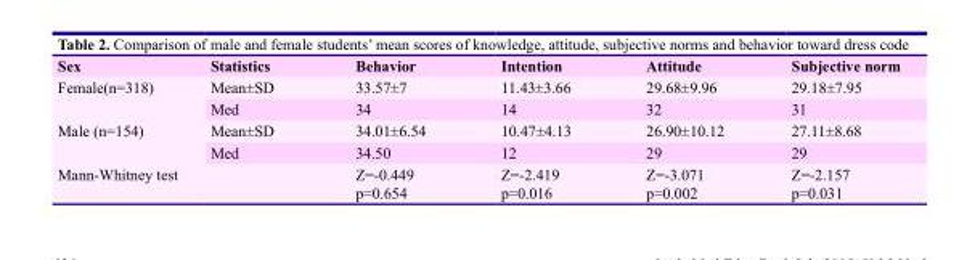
<table><thead><tr><td>Sex</td><td>Statistics</td><td>Behavior</td><td>Intention</td><td>Attitude</td><td>Subjective norm</td></tr></thead><tbody><tr><td rowspan="2">Female(n=318)</td><td>Mean±SD</td><td>33.57±7</td><td>11.43±3.66</td><td>29.68±9.96</td><td>29.18±7.95</td></tr><tr><td>Med</td><td>34</td><td>14</td><td>32</td><td>31</td></tr><tr><td rowspan="2">Male (n=154)</td><td>Mean±SD</td><td>34.01±6.54</td><td>10.47±4.13</td><td>26.90±10.12</td><td>27.11±8.68</td></tr><tr><td>Med</td><td>34.50</td><td>12</td><td>29</td><td>29</td></tr><tr><td colspan="2">Mann-Whitney test</td><td>Z=-0.449 p=0.654</td><td>Z=-2.419 p=0.016</td><td>Z=-3.071 p=0.002</td><td>Z=-2.157 p=0.031</td></tr></tbody></table>